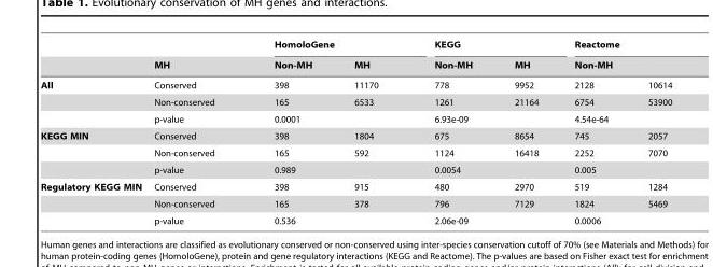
<table><thead><tr><td rowspan="2"></td><td rowspan="2">MH</td><td colspan="2">HomoloGene</td><td colspan="2">KEGG</td><td colspan="2">Reactome</td></tr><tr><td>Non-MH</td><td>MH</td><td>Non-MH</td><td>MH</td><td>Non-MH</td><td></td></tr></thead><tbody><tr><td rowspan="3">All</td><td>Conserved</td><td>398</td><td>11170</td><td>778</td><td>9952</td><td>2128</td><td>10614</td></tr><tr><td>Non-conserved</td><td>165</td><td>6533</td><td>1261</td><td>21164</td><td>6754</td><td>53900</td></tr><tr><td>p-value</td><td colspan="2">0.0001</td><td colspan="2">6.93e-09</td><td colspan="2">4.54e-64</td></tr><tr><td rowspan="3">KEGG MIN</td><td>Conserved</td><td>398</td><td>1804</td><td>675</td><td>8654</td><td>745</td><td>2057</td></tr><tr><td>Non-conserved</td><td>165</td><td>592</td><td>1124</td><td>16418</td><td>2252</td><td>7070</td></tr><tr><td>p-value</td><td colspan="2">0.989</td><td colspan="2">0.0054</td><td colspan="2">0.005</td></tr><tr><td rowspan="3">Regulatory KEGG MIN</td><td>Conserved</td><td>398</td><td>915</td><td>480</td><td>2970</td><td>519</td><td>1284</td></tr><tr><td>Non-conserved</td><td>165</td><td>378</td><td>796</td><td>7129</td><td>1824</td><td>5469</td></tr><tr><td>p-value</td><td colspan="2">0.536</td><td colspan="2">2.06e-09</td><td colspan="2">0.0006</td></tr></tbody></table>